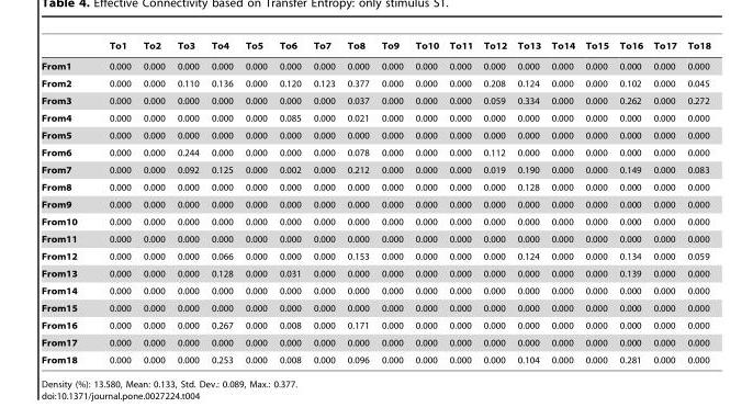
<table><thead><tr><td></td><td>To1</td><td>To2</td><td>To3</td><td>To4</td><td>To5</td><td>To6</td><td>To7</td><td>To8</td><td>To9</td><td>To10</td><td>To11</td><td>To12</td><td>To13</td><td>To14</td><td>To15</td><td>To16</td><td>To17</td><td>To18</td></tr></thead><tbody><tr><td>From1</td><td>0.000</td><td>0.000</td><td>0.000</td><td>0.000</td><td>0.000</td><td>0.000</td><td>0.000</td><td>0.000</td><td>0.000</td><td>0.000</td><td>0.000</td><td>0.000</td><td>0.000</td><td>0.000</td><td>0.000</td><td>0.000</td><td>0.000</td><td>0.000</td></tr><tr><td>From2</td><td>0.000</td><td>0.000</td><td>0.110</td><td>0.136</td><td>0.000</td><td>0.120</td><td>0.123</td><td>0.377</td><td>0.000</td><td>0.000</td><td>0.000</td><td>0.208</td><td>0.124</td><td>0.000</td><td>0.000</td><td>0.102</td><td>0.000</td><td>0.045</td></tr><tr><td>From3</td><td>0.000</td><td>0.000</td><td>0.000</td><td>0.000</td><td>0.000</td><td>0.000</td><td>0.000</td><td>0.037</td><td>0.000</td><td>0.000</td><td>0.000</td><td>0.059</td><td>0.334</td><td>0.000</td><td>0.000</td><td>0.262</td><td>0.000</td><td>0.272</td></tr><tr><td>From4</td><td>0.000</td><td>0.000</td><td>0.000</td><td>0.000</td><td>0.000</td><td>0.085</td><td>0.000</td><td>0.021</td><td>0.000</td><td>0.000</td><td>0.000</td><td>0.000</td><td>0.000</td><td>0.000</td><td>0.000</td><td>0.000</td><td>0.000</td><td>0.000</td></tr><tr><td>From5</td><td>0.000</td><td>0.000</td><td>0.000</td><td>0.000</td><td>0.000</td><td>0.000</td><td>0.000</td><td>0.000</td><td>0.000</td><td>0.000</td><td>0.000</td><td>0.000</td><td>0.000</td><td>0.000</td><td>0.000</td><td>0.000</td><td>0.000</td><td>0.000</td></tr><tr><td>From6</td><td>0.000</td><td>0.000</td><td>0.244</td><td>0.000</td><td>0.000</td><td>0.000</td><td>0.000</td><td>0.078</td><td>0.000</td><td>0.000</td><td>0.000</td><td>0.112</td><td>0.000</td><td>0.000</td><td>0.000</td><td>0.000</td><td>0.000</td><td>0.000</td></tr><tr><td>From7</td><td>0.000</td><td>0.000</td><td>0.092</td><td>0.125</td><td>0.000</td><td>0.002</td><td>0.000</td><td>0.212</td><td>0.000</td><td>0.000</td><td>0.000</td><td>0.019</td><td>0.190</td><td>0.000</td><td>0.000</td><td>0.149</td><td>0.000</td><td>0.083</td></tr><tr><td>From8</td><td>0.000</td><td>0.000</td><td>0.000</td><td>0.000</td><td>0.000</td><td>0.000</td><td>0.000</td><td>0.000</td><td>0.000</td><td>0.000</td><td>0.000</td><td>0.000</td><td>0.128</td><td>0.000</td><td>0.000</td><td>0.000</td><td>0.000</td><td>0.000</td></tr><tr><td>From9</td><td>0.000</td><td>0.000</td><td>0.000</td><td>0.000</td><td>0.000</td><td>0.000</td><td>0.000</td><td>0.000</td><td>0.000</td><td>0.000</td><td>0.000</td><td>0.000</td><td>0.000</td><td>0.000</td><td>0.000</td><td>0.000</td><td>0.000</td><td>0.000</td></tr><tr><td>From10</td><td>0.000</td><td>0.000</td><td>0.000</td><td>0.000</td><td>0.000</td><td>0.000</td><td>0.000</td><td>0.000</td><td>0.000</td><td>0.000</td><td>0.000</td><td>0.000</td><td>0.000</td><td>0.000</td><td>0.000</td><td>0.000</td><td>0.000</td><td>0.000</td></tr><tr><td>From11</td><td>0.000</td><td>0.000</td><td>0.000</td><td>0.000</td><td>0.000</td><td>0.000</td><td>0.000</td><td>0.000</td><td>0.000</td><td>0.000</td><td>0.000</td><td>0.000</td><td>0.000</td><td>0.000</td><td>0.000</td><td>0.000</td><td>0.000</td><td>0.000</td></tr><tr><td>From12</td><td>0.000</td><td>0.000</td><td>0.000</td><td>0.066</td><td>0.000</td><td>0.000</td><td>0.000</td><td>0.153</td><td>0.000</td><td>0.000</td><td>0.000</td><td>0.000</td><td>0.124</td><td>0.000</td><td>0.000</td><td>0.134</td><td>0.000</td><td>0.059</td></tr><tr><td>From13</td><td>0.000</td><td>0.000</td><td>0.000</td><td>0.128</td><td>0.000</td><td>0.031</td><td>0.000</td><td>0.000</td><td>0.000</td><td>0.000</td><td>0.000</td><td>0.000</td><td>0.000</td><td>0.000</td><td>0.000</td><td>0.139</td><td>0.000</td><td>0.000</td></tr><tr><td>From14</td><td>0.000</td><td>0.000</td><td>0.000</td><td>0.000</td><td>0.000</td><td>0.000</td><td>0.000</td><td>0.000</td><td>0.000</td><td>0.000</td><td>0.000</td><td>0.000</td><td>0.000</td><td>0.000</td><td>0.000</td><td>0.000</td><td>0.000</td><td>0.000</td></tr><tr><td>From15</td><td>0.000</td><td>0.000</td><td>0.000</td><td>0.000</td><td>0.000</td><td>0.000</td><td>0.000</td><td>0.000</td><td>0.000</td><td>0.000</td><td>0.000</td><td>0.000</td><td>0.000</td><td>0.000</td><td>0.000</td><td>0.000</td><td>0.000</td><td>0.000</td></tr><tr><td>From16</td><td>0.000</td><td>0.000</td><td>0.000</td><td>0.267</td><td>0.000</td><td>0.008</td><td>0.000</td><td>0.171</td><td>0.000</td><td>0.000</td><td>0.000</td><td>0.000</td><td>0.000</td><td>0.000</td><td>0.000</td><td>0.000</td><td>0.000</td><td>0.000</td></tr><tr><td>From17</td><td>0.000</td><td>0.000</td><td>0.000</td><td>0.000</td><td>0.000</td><td>0.000</td><td>0.000</td><td>0.000</td><td>0.000</td><td>0.000</td><td>0.000</td><td>0.000</td><td>0.000</td><td>0.000</td><td>0.000</td><td>0.000</td><td>0.000</td><td>0.000</td></tr><tr><td>From18</td><td>0.000</td><td>0.000</td><td>0.000</td><td>0.253</td><td>0.000</td><td>0.008</td><td>0.000</td><td>0.096</td><td>0.000</td><td>0.000</td><td>0.000</td><td>0.000</td><td>0.104</td><td>0.000</td><td>0.000</td><td>0.281</td><td>0.000</td><td>0.000</td></tr></tbody></table>